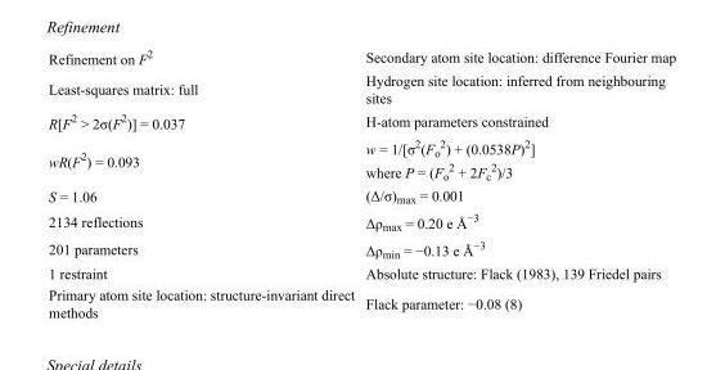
<table><tbody><tr><td>Refinement on F<sup>2</sup></td><td>Secondary atom site location: difference Fourier map</td></tr><tr><td>Least-squares matrix: full</td><td>Hydrogen site location: inferred from neighbouring sites</td></tr><tr><td>R[F<sup>2</sup> &gt; 2σ(F<sup>2</sup>)] = 0.037</td><td>H-atom parameters constrained</td></tr><tr><td>wR(F<sup>2</sup>) = 0.093</td><td>w = 1/[σ<sup>2</sup>(F<sub>o</sub> <sup>2</sup>) + (0.0538P)<sup>2</sup>] where P = (F<sub>o</sub> <sup>2</sup> + 2F<sub>c</sub> <sup>2</sup>)/3</td></tr><tr><td>S = 1.06</td><td>(Δ/σ)<sub>max</sub> = 0.001</td></tr><tr><td>2134 reflections</td><td>Δρ<sub>max</sub> = 0.20 e Å<sup>−3</sup></td></tr><tr><td>201 parameters</td><td>Δρ<sub>min</sub> = −0.13 e Å<sup>−3</sup></td></tr><tr><td>1 restraint</td><td>Absolute structure: Flack (1983), 139 Friedel pairs</td></tr><tr><td>Primary atom site location: structure-invariant direct methods</td><td>Flack parameter: −0.08 (8)</td></tr></tbody></table>